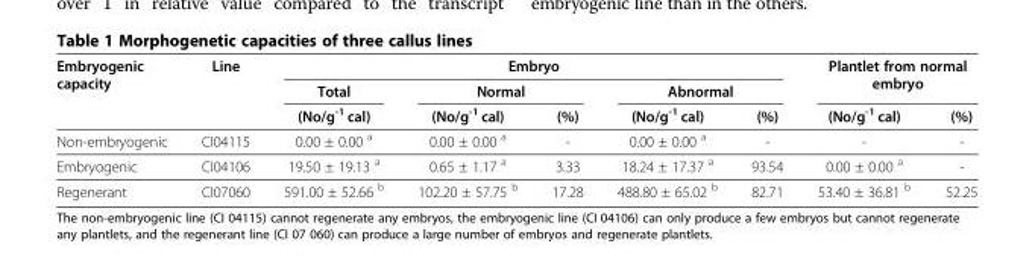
<table><thead><tr><td rowspan="3">Embryogenic capacity</td><td rowspan="3">Line</td><td colspan="5">Embryo</td><td rowspan="2" colspan="2">Plantlet from normal embryo</td></tr><tr><td rowspan="2">Total (No/g<sup>-1</sup> cal)</td><td colspan="2">Normal</td><td colspan="2">Abnormal</td></tr><tr><td>(No/g<sup>-1</sup> cal)</td><td>(%)</td><td>(No/g<sup>-1</sup> cal)</td><td>(%)</td><td>(No/g<sup>-1</sup> cal)</td><td>(%)</td></tr></thead><tbody><tr><td>Non-embryogenic</td><td>CI04115</td><td>0.00 ± 0.00 <sup>a</sup></td><td>0.00 ± 0.00 <sup>a</sup></td><td>-</td><td>0.00 ± 0.00 <sup>a</sup></td><td>-</td><td>-</td><td>-</td></tr><tr><td>Embryogenic</td><td>CI04106</td><td>19.50 ± 19.13 <sup>a</sup></td><td>0.65 ± 1.17 <sup>a</sup></td><td>3.33</td><td>18.24 ± 17.37 <sup>a</sup></td><td>93.54</td><td>0.00 ± 0.00 <sup>a</sup></td><td>-</td></tr><tr><td>Regenerant</td><td>CI07060</td><td>591.00 ± 52.66 <sup>b</sup></td><td>102.20 ± 57.75 <sup>b</sup></td><td>17.28</td><td>488.80 ± 65.02 <sup>b</sup></td><td>82.71</td><td>53.40 ± 36.81 <sup>b</sup></td><td>52.25</td></tr></tbody></table>